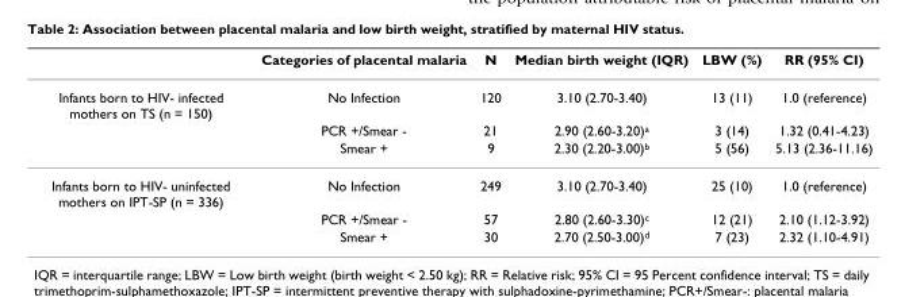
<table><thead><tr><td></td><td>Categories of placental malaria</td><td>N</td><td>Median birth weight (IQR)</td><td>LBW (%)</td><td>RR (95% CI)</td></tr></thead><tbody><tr><td rowspan="3">Infants born to HIV- infected mothers on TS (n = 150)</td><td>No Infection</td><td>120</td><td>3.10 (2.70-3.40)</td><td>13 (11)</td><td>1.0 (reference)</td></tr><tr><td>PCR +/Smear -</td><td>21</td><td>2.90 (2.60-3.20)<sup>a</sup></td><td>3 (14)</td><td>1.32 (0.41-4.23)</td></tr><tr><td>Smear +</td><td>9</td><td>2.30 (2.20-3.00)<sup>b</sup></td><td>5 (56)</td><td>5.13 (2.36-11.16)</td></tr><tr><td rowspan="3">Infants born to HIV- uninfected mothers on IPT-SP (n = 336)</td><td>No Infection</td><td>249</td><td>3.10 (2.70-3.40)</td><td>25 (10)</td><td>1.0 (reference)</td></tr><tr><td>PCR +/Smear -</td><td>57</td><td>2.80 (2.60-3.30)<sup>c</sup></td><td>12 (21)</td><td>2.10 (1.12-3.92)</td></tr><tr><td>Smear +</td><td>30</td><td>2.70 (2.50-3.00)<sup>d</sup></td><td>7 (23)</td><td>2.32 (1.10-4.91)</td></tr></tbody></table>